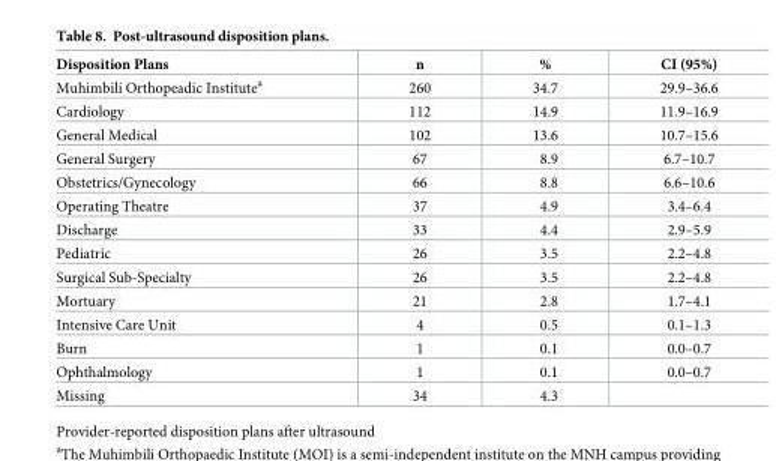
<table><thead><tr><td>Disposition Plans</td><td>n</td><td>%</td><td>CI (95%)</td></tr></thead><tbody><tr><td>Muhimbili Orthopeadic Institute<sup>a</sup></td><td>260</td><td>34.7</td><td>29.9–36.6</td></tr><tr><td>Cardiology</td><td>112</td><td>14.9</td><td>11.9–16.9</td></tr><tr><td>General Medical</td><td>102</td><td>13.6</td><td>10.7–15.6</td></tr><tr><td>General Surgery</td><td>67</td><td>8.9</td><td>6.7–10.7</td></tr><tr><td>Obstetrics/Gynecology</td><td>66</td><td>8.8</td><td>6.6–10.6</td></tr><tr><td>Operating Theatre</td><td>37</td><td>4.9</td><td>3.4–6.4</td></tr><tr><td>Discharge</td><td>33</td><td>4.4</td><td>2.9–5.9</td></tr><tr><td>Pediatric</td><td>26</td><td>3.5</td><td>2.2–4.8</td></tr><tr><td>Surgical Sub-Specialty</td><td>26</td><td>3.5</td><td>2.2–4.8</td></tr><tr><td>Mortuary</td><td>21</td><td>2.8</td><td>1.7–4.1</td></tr><tr><td>Intensive Care Unit</td><td>4</td><td>0.5</td><td>0.1–1.3</td></tr><tr><td>Burn</td><td>1</td><td>0.1</td><td>0.0–0.7</td></tr><tr><td>Ophthalmology</td><td>1</td><td>0.1</td><td>0.0–0.7</td></tr><tr><td>Missing</td><td>34</td><td>4.3</td><td></td></tr></tbody></table>